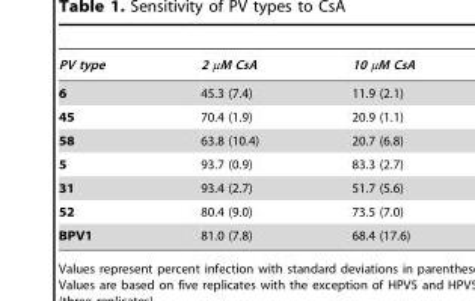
<table><thead><tr><td>PV type</td><td>2 µM CsA</td><td>10 µM CsA</td></tr></thead><tbody><tr><td>6</td><td>45.3 (7.4)</td><td>11.9 (2.1)</td></tr><tr><td>45</td><td>70.4 (1.9)</td><td>20.9 (1.1)</td></tr><tr><td>58</td><td>63.8 (10.4)</td><td>20.7 (6.8)</td></tr><tr><td>5</td><td>93.7 (0.9)</td><td>83.3 (2.7)</td></tr><tr><td>31</td><td>93.4 (2.7)</td><td>51.7 (5.6)</td></tr><tr><td>52</td><td>80.4 (9.0)</td><td>73.5 (7.0)</td></tr><tr><td>BPV1</td><td>81.0 (7.8)</td><td>68.4 (17.6)</td></tr></tbody></table>